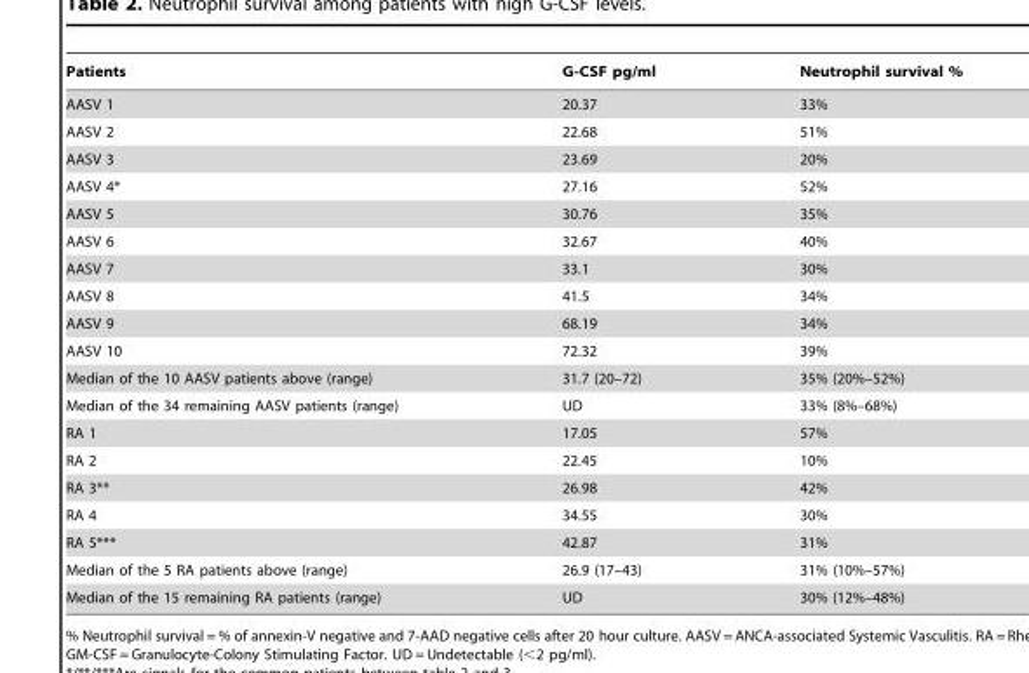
<table><thead><tr><td>Patients</td><td>G-CSF pg/ml</td><td>Neutrophil survival %</td></tr></thead><tbody><tr><td>AASV 1</td><td>20.37</td><td>33%</td></tr><tr><td>AASV 2</td><td>22.68</td><td>51%</td></tr><tr><td>AASV 3</td><td>23.69</td><td>20%</td></tr><tr><td>AASV 4*</td><td>27.16</td><td>52%</td></tr><tr><td>AASV 5</td><td>30.76</td><td>35%</td></tr><tr><td>AASV 6</td><td>32.67</td><td>40%</td></tr><tr><td>AASV 7</td><td>33.1</td><td>30%</td></tr><tr><td>AASV 8</td><td>41.5</td><td>34%</td></tr><tr><td>AASV 9</td><td>68.19</td><td>34%</td></tr><tr><td>AASV 10</td><td>72.32</td><td>39%</td></tr><tr><td>Median of the 10 AASV patients above (range)</td><td>31.7 (20–72)</td><td>35% (20%–52%)</td></tr><tr><td>Median of the 34 remaining AASV patients (range)</td><td>UD</td><td>33% (8%–68%)</td></tr><tr><td>RA 1</td><td>17.05</td><td>57%</td></tr><tr><td>RA 2</td><td>22.45</td><td>10%</td></tr><tr><td>RA 3**</td><td>26.98</td><td>42%</td></tr><tr><td>RA 4</td><td>34.55</td><td>30%</td></tr><tr><td>RA 5***</td><td>42.87</td><td>31%</td></tr><tr><td>Median of the 5 RA patients above (range)</td><td>26.9 (17–43)</td><td>31% (10%–57%)</td></tr><tr><td>Median of the 15 remaining RA patients (range)</td><td>UD</td><td>30% (12%–48%)</td></tr></tbody></table>